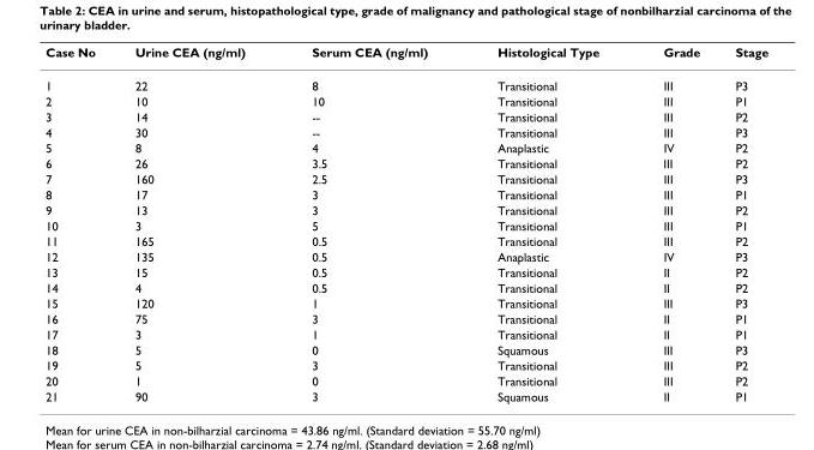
<table><thead><tr><td>Case No</td><td>Urine CEA (ng/ml)</td><td>Serum CEA (ng/ml)</td><td>Histological Type</td><td>Grade</td><td>Stage</td></tr></thead><tbody><tr><td>1</td><td>22</td><td>8</td><td>Transitional</td><td>III</td><td>P3</td></tr><tr><td>2</td><td>10</td><td>10</td><td>Transitional</td><td>III</td><td>P1</td></tr><tr><td>3</td><td>14</td><td>--</td><td>Transitional</td><td>III</td><td>P2</td></tr><tr><td>4</td><td>30</td><td>--</td><td>Transitional</td><td>III</td><td>P3</td></tr><tr><td>5</td><td>8</td><td>4</td><td>Anaplastic</td><td>IV</td><td>P2</td></tr><tr><td>6</td><td>26</td><td>3.5</td><td>Transitional</td><td>III</td><td>P2</td></tr><tr><td>7</td><td>160</td><td>2.5</td><td>Transitional</td><td>III</td><td>P3</td></tr><tr><td>8</td><td>17</td><td>3</td><td>Transitional</td><td>III</td><td>P1</td></tr><tr><td>9</td><td>13</td><td>3</td><td>Transitional</td><td>III</td><td>P2</td></tr><tr><td>10</td><td>3</td><td>5</td><td>Transitional</td><td>III</td><td>P1</td></tr><tr><td>11</td><td>165</td><td>0.5</td><td>Transitional</td><td>III</td><td>P2</td></tr><tr><td>12</td><td>135</td><td>0.5</td><td>Anaplastic</td><td>IV</td><td>P3</td></tr><tr><td>13</td><td>15</td><td>0.5</td><td>Transitional</td><td>II</td><td>P2</td></tr><tr><td>14</td><td>4</td><td>0.5</td><td>Transitional</td><td>II</td><td>P2</td></tr><tr><td>15</td><td>120</td><td>1</td><td>Transitional</td><td>III</td><td>P3</td></tr><tr><td>16</td><td>75</td><td>3</td><td>Transitional</td><td>II</td><td>P1</td></tr><tr><td>17</td><td>3</td><td>1</td><td>Transitional</td><td>II</td><td>P1</td></tr><tr><td>18</td><td>5</td><td>0</td><td>Squamous</td><td>III</td><td>P3</td></tr><tr><td>19</td><td>5</td><td>3</td><td>Transitional</td><td>III</td><td>P2</td></tr><tr><td>20</td><td>1</td><td>0</td><td>Transitional</td><td>III</td><td>P2</td></tr><tr><td>21</td><td>90</td><td>3</td><td>Squamous</td><td>II</td><td>P1</td></tr></tbody></table>